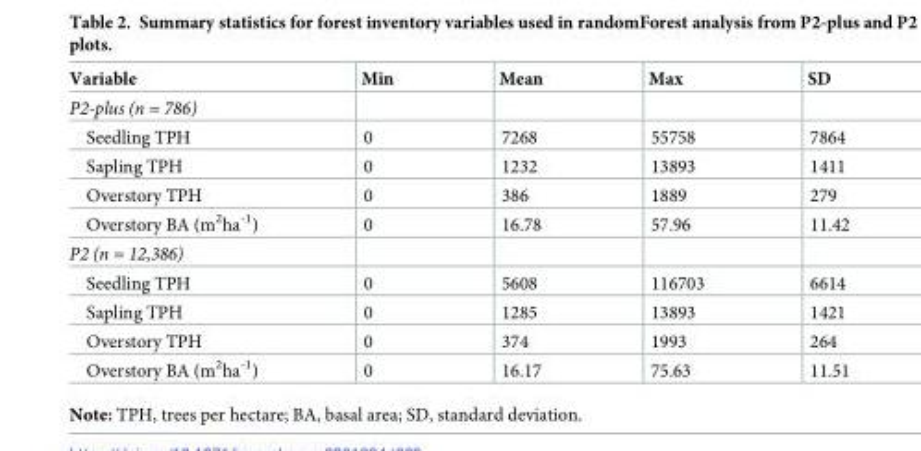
<table><thead><tr><td>Variable</td><td>Min</td><td>Mean</td><td>Max</td><td>SD</td></tr></thead><tbody><tr><td colspan="5">P2-plus (n = 786)</td></tr><tr><td>Seedling TPH</td><td>0</td><td>7268</td><td>55758</td><td>7864</td></tr><tr><td>Sapling TPH</td><td>0</td><td>1232</td><td>13893</td><td>1411</td></tr><tr><td>Overstory TPH</td><td>0</td><td>386</td><td>1889</td><td>279</td></tr><tr><td>Overstory BA (m<sup>2</sup>ha<sup>-1</sup>)</td><td>0</td><td>16.78</td><td>57.96</td><td>11.42</td></tr><tr><td colspan="5">P2 (n = 12,386)</td></tr><tr><td>Seedling TPH</td><td>0</td><td>5608</td><td>116703</td><td>6614</td></tr><tr><td>Sapling TPH</td><td>0</td><td>1285</td><td>13893</td><td>1421</td></tr><tr><td>Overstory TPH</td><td>0</td><td>374</td><td>1993</td><td>264</td></tr><tr><td>Overstory BA (m<sup>2</sup>ha<sup>-1</sup>)</td><td>0</td><td>16.17</td><td>75.63</td><td>11.51</td></tr></tbody></table>